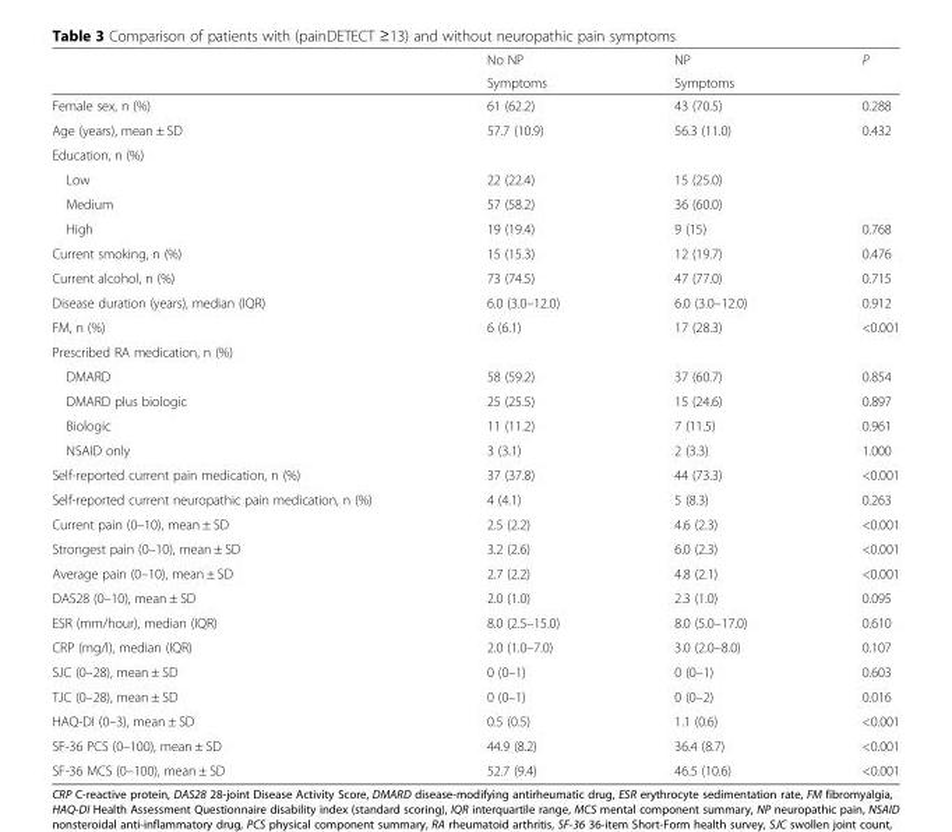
<table><thead><tr><td rowspan="2"></td><td rowspan="2">No NP Symptoms</td><td rowspan="2">NP Symptoms</td><td rowspan="2">P</td></tr><tr></tr></thead><tbody><tr><td>Female sex, n (%)</td><td>61 (62.2)</td><td>43 (70.5)</td><td>0.288</td></tr><tr><td>Age (years), mean ± SD</td><td>57.7 (10.9)</td><td>56.3 (11.0)</td><td>0.432</td></tr><tr><td colspan="4">Education, n (%)</td></tr><tr><td>Low</td><td>22 (22.4)</td><td>15 (25.0)</td><td></td></tr><tr><td>Medium</td><td>57 (58.2)</td><td>36 (60.0)</td><td></td></tr><tr><td>High</td><td>19 (19.4)</td><td>9 (15)</td><td>0.768</td></tr><tr><td>Current smoking, n (%)</td><td>15 (15.3)</td><td>12 (19.7)</td><td>0.476</td></tr><tr><td>Current alcohol, n (%)</td><td>73 (74.5)</td><td>47 (77.0)</td><td>0.715</td></tr><tr><td>Disease duration (years), median (IQR)</td><td>6.0 (3.0–12.0)</td><td>6.0 (3.0–12.0)</td><td>0.912</td></tr><tr><td>FM, n (%)</td><td>6 (6.1)</td><td>17 (28.3)</td><td>&lt;0.001</td></tr><tr><td colspan="4">Prescribed RA medication, n (%)</td></tr><tr><td>DMARD</td><td>58 (59.2)</td><td>37 (60.7)</td><td>0.854</td></tr><tr><td>DMARD plus biologic</td><td>25 (25.5)</td><td>15 (24.6)</td><td>0.897</td></tr><tr><td>Biologic</td><td>11 (11.2)</td><td>7 (11.5)</td><td>0.961</td></tr><tr><td>NSAID only</td><td>3 (3.1)</td><td>2 (3.3)</td><td>1.000</td></tr><tr><td>Self-reported current pain medication, n (%)</td><td>37 (37.8)</td><td>44 (73.3)</td><td>&lt;0.001</td></tr><tr><td>Self-reported current neuropathic pain medication, n (%)</td><td>4 (4.1)</td><td>5 (8.3)</td><td>0.263</td></tr><tr><td>Current pain (0–10), mean ± SD</td><td>2.5 (2.2)</td><td>4.6 (2.3)</td><td>&lt;0.001</td></tr><tr><td>Strongest pain (0–10), mean ± SD</td><td>3.2 (2.6)</td><td>6.0 (2.3)</td><td>&lt;0.001</td></tr><tr><td>Average pain (0–10), mean ± SD</td><td>2.7 (2.2)</td><td>4.8 (2.1)</td><td>&lt;0.001</td></tr><tr><td>DAS28 (0–10), mean ± SD</td><td>2.0 (1.0)</td><td>2.3 (1.0)</td><td>0.095</td></tr><tr><td>ESR (mm/hour), median (IQR)</td><td>8.0 (2.5–15.0)</td><td>8.0 (5.0–17.0)</td><td>0.610</td></tr><tr><td>CRP (mg/l), median (IQR)</td><td>2.0 (1.0–7.0)</td><td>3.0 (2.0–8.0)</td><td>0.107</td></tr><tr><td>SJC (0–28), mean ± SD</td><td>0 (0–1)</td><td>0 (0–1)</td><td>0.603</td></tr><tr><td>TJC (0–28), mean ± SD</td><td>0 (0–1)</td><td>0 (0–2)</td><td>0.016</td></tr><tr><td>HAQ-DI (0–3), mean ± SD</td><td>0.5 (0.5)</td><td>1.1 (0.6)</td><td>&lt;0.001</td></tr><tr><td>SF-36 PCS (0–100), mean ± SD</td><td>44.9 (8.2)</td><td>36.4 (8.7)</td><td>&lt;0.001</td></tr><tr><td>SF-36 MCS (0–100), mean ± SD</td><td>52.7 (9.4)</td><td>46.5 (10.6)</td><td>&lt;0.001</td></tr></tbody></table>